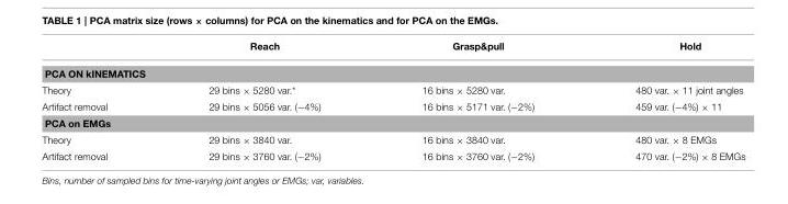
<table><thead><tr><td></td><td>Reach</td><td>Grasp&amp;pull</td><td>Hold</td></tr></thead><tbody><tr><td colspan="4">PCA ON kINEMATICS</td></tr><tr><td>Theory</td><td>29 bins × 5280 var.*</td><td>16 bins × 5280 var.</td><td>480 var. × 11 joint angles</td></tr><tr><td>Artifact removal</td><td>29 bins × 5056 var. (−4%)</td><td>16 bins × 5171 var. (−2%)</td><td>459 var. (−4%) × 11</td></tr><tr><td colspan="4">PCA on EMGs</td></tr><tr><td>Theory</td><td>29 bins × 3840 var.</td><td>16 bins × 3840 var.</td><td>480 var. × 8 EMGs</td></tr><tr><td>Artifact removal</td><td>29 bins × 3760 var. (−2%)</td><td>16 bins × 3760 var. (−2%)</td><td>470 var. (−2%) × 8 EMGs</td></tr></tbody></table>